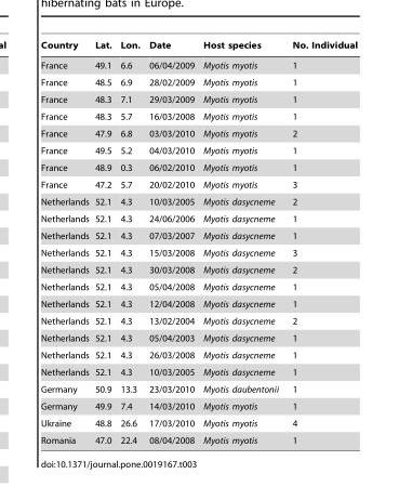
<table><thead><tr><td>Country</td><td>Lat.</td><td>Lon.</td><td>Date</td><td>Host species</td><td>No. Individual</td></tr></thead><tbody><tr><td>France</td><td>49.1</td><td>6.6</td><td>06/04/2009</td><td>Myotis myotis</td><td>1</td></tr><tr><td>France</td><td>48.5</td><td>6.9</td><td>28/02/2009</td><td>Myotis myotis</td><td>1</td></tr><tr><td>France</td><td>48.3</td><td>7.1</td><td>29/03/2009</td><td>Myotis myotis</td><td>1</td></tr><tr><td>France</td><td>48.3</td><td>5.7</td><td>16/03/2008</td><td>Myotis myotis</td><td>1</td></tr><tr><td>France</td><td>47.9</td><td>6.8</td><td>03/03/2010</td><td>Myotis myotis</td><td>2</td></tr><tr><td>France</td><td>49.5</td><td>5.2</td><td>04/03/2010</td><td>Myotis myotis</td><td>1</td></tr><tr><td>France</td><td>48.9</td><td>0.3</td><td>06/02/2010</td><td>Myotis myotis</td><td>1</td></tr><tr><td>France</td><td>47.2</td><td>5.7</td><td>20/02/2010</td><td>Myotis myotis</td><td>3</td></tr><tr><td>Netherlands</td><td>52.1</td><td>4.3</td><td>10/03/2005</td><td>Myotis dasycneme</td><td>2</td></tr><tr><td>Netherlands</td><td>52.1</td><td>4.3</td><td>24/06/2006</td><td>Myotis dasycneme</td><td>1</td></tr><tr><td>Netherlands</td><td>52.1</td><td>4.3</td><td>07/03/2007</td><td>Myotis dasycneme</td><td>1</td></tr><tr><td>Netherlands</td><td>52.1</td><td>4.3</td><td>15/03/2008</td><td>Myotis dasycneme</td><td>3</td></tr><tr><td>Netherlands</td><td>52.1</td><td>4.3</td><td>30/03/2008</td><td>Myotis dasycneme</td><td>2</td></tr><tr><td>Netherlands</td><td>52.1</td><td>4.3</td><td>05/04/2008</td><td>Myotis dasycneme</td><td>1</td></tr><tr><td>Netherlands</td><td>52.1</td><td>4.3</td><td>12/04/2008</td><td>Myotis dasycneme</td><td>1</td></tr><tr><td>Netherlands</td><td>52.1</td><td>4.3</td><td>13/02/2004</td><td>Myotis dasycneme</td><td>2</td></tr><tr><td>Netherlands</td><td>52.1</td><td>4.3</td><td>05/04/2003</td><td>Myotis dasycneme</td><td>1</td></tr><tr><td>Netherlands</td><td>52.1</td><td>4.3</td><td>26/03/2008</td><td>Myotis dasycneme</td><td>1</td></tr><tr><td>Netherlands</td><td>52.1</td><td>4.3</td><td>10/03/2005</td><td>Myotis dasycneme</td><td>1</td></tr><tr><td>Germany</td><td>50.9</td><td>13.3</td><td>23/03/2010</td><td>Myotis daubentonii</td><td>1</td></tr><tr><td>Germany</td><td>49.9</td><td>7.4</td><td>14/03/2010</td><td>Myotis myotis</td><td>1</td></tr><tr><td>Ukraine</td><td>48.8</td><td>26.6</td><td>17/03/2010</td><td>Myotis myotis</td><td>4</td></tr><tr><td>Romania</td><td>47.0</td><td>22.4</td><td>08/04/2008</td><td>Myotis myotis</td><td>1</td></tr></tbody></table>